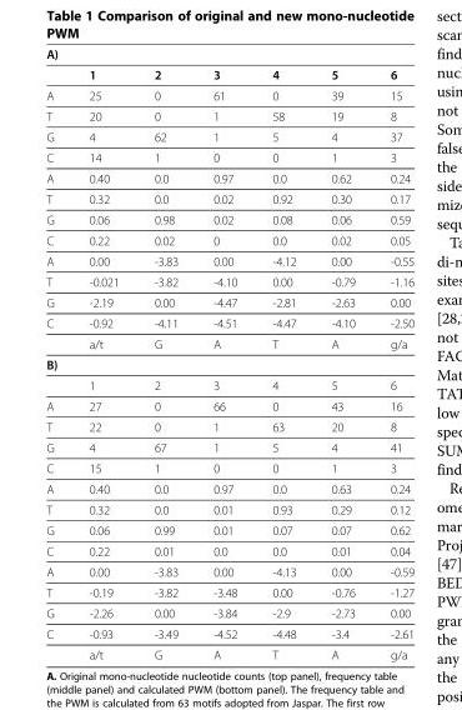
<table><tbody><tr><td colspan="7">A)</td></tr><tr><td></td><td>1</td><td>2</td><td>3</td><td>4</td><td>5</td><td>6</td></tr><tr><td>A</td><td>25</td><td>0</td><td>61</td><td>0</td><td>39</td><td>15</td></tr><tr><td>T</td><td>20</td><td>0</td><td>1</td><td>58</td><td>19</td><td>8</td></tr><tr><td>G</td><td>4</td><td>62</td><td>1</td><td>5</td><td>4</td><td>37</td></tr><tr><td>C</td><td>14</td><td>1</td><td>0</td><td>0</td><td>1</td><td>3</td></tr><tr><td>A</td><td>0.40</td><td>0.0</td><td>0.97</td><td>0.0</td><td>0.62</td><td>0.24</td></tr><tr><td>T</td><td>0.32</td><td>0.0</td><td>0.02</td><td>0.92</td><td>0.30</td><td>0.17</td></tr><tr><td>G</td><td>0.06</td><td>0.98</td><td>0.02</td><td>0.08</td><td>0.06</td><td>0.59</td></tr><tr><td>C</td><td>0.22</td><td>0.02</td><td>0</td><td>0.0</td><td>0.02</td><td>0.05</td></tr><tr><td>A</td><td>0.00</td><td>-3.83</td><td>0.00</td><td>-4.12</td><td>0.00</td><td>-0.55</td></tr><tr><td>T</td><td>-0.021</td><td>-3.82</td><td>-4.10</td><td>0.00</td><td>-0.79</td><td>-1.16</td></tr><tr><td>G</td><td>-2.19</td><td>0.00</td><td>-4.47</td><td>-2.81</td><td>-2.63</td><td>0.00</td></tr><tr><td rowspan="2">C</td><td>-0.92</td><td>-4.11</td><td>-4.51</td><td>-4.47</td><td>-4.10</td><td>-2.50</td></tr><tr><td>a/t</td><td>G</td><td>A</td><td>T</td><td>A</td><td>g/a</td></tr><tr><td colspan="7">B)</td></tr><tr><td></td><td>1</td><td>2</td><td>3</td><td>4</td><td>5</td><td>6</td></tr><tr><td>A</td><td>27</td><td>0</td><td>66</td><td>0</td><td>43</td><td>16</td></tr><tr><td>T</td><td>22</td><td>0</td><td>1</td><td>63</td><td>20</td><td>8</td></tr><tr><td>G</td><td>4</td><td>67</td><td>1</td><td>5</td><td>4</td><td>41</td></tr><tr><td>C</td><td>15</td><td>1</td><td>0</td><td>0</td><td>1</td><td>3</td></tr><tr><td>A</td><td>0.40</td><td>0.0</td><td>0.97</td><td>0.0</td><td>0.63</td><td>0.24</td></tr><tr><td>T</td><td>0.32</td><td>0.0</td><td>0.01</td><td>0.93</td><td>0.29</td><td>0.12</td></tr><tr><td>G</td><td>0.06</td><td>0.99</td><td>0.01</td><td>0.07</td><td>0.07</td><td>0.62</td></tr><tr><td>C</td><td>0.22</td><td>0.01</td><td>0.0</td><td>0.0</td><td>0.01</td><td>0.04</td></tr><tr><td>A</td><td>0.00</td><td>-3.83</td><td>0.00</td><td>-4.13</td><td>0.00</td><td>-0.59</td></tr><tr><td>T</td><td>-0.19</td><td>-3.82</td><td>-3.48</td><td>0.00</td><td>-0.76</td><td>-1.27</td></tr><tr><td>G</td><td>-2.26</td><td>0.00</td><td>-3.84</td><td>-2.9</td><td>-2.73</td><td>0.00</td></tr><tr><td rowspan="2">C</td><td>-0.93</td><td>-3.49</td><td>-4.52</td><td>-4.48</td><td>-3.4</td><td>-2.61</td></tr><tr><td>a/t</td><td>G</td><td>A</td><td>T</td><td>A</td><td>g/a</td></tr></tbody></table>